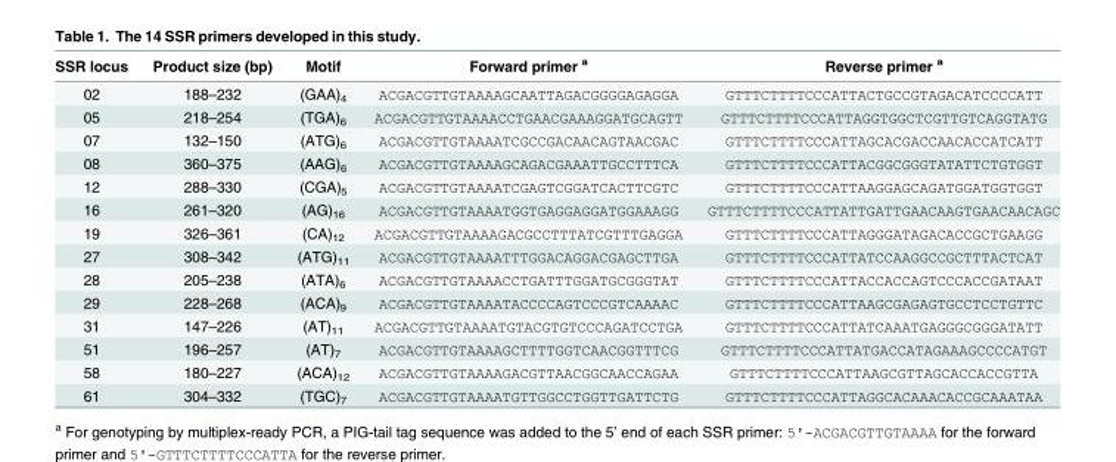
<table><thead><tr><td>SSR locus</td><td>Product size (bp)</td><td>Motif</td><td>Forward primer <sup>a</sup></td><td>Reverse primer <sup>a</sup></td></tr></thead><tbody><tr><td>02</td><td>188–232</td><td>(GAA)<sub>4</sub></td><td>ACGACGTTGTAAAAGCAATTAGACGGGGAGAGGA</td><td>GTTTCTTTTCCCATTACTGCCGTAGACATCCCCATT</td></tr><tr><td>05</td><td>218–254</td><td>(TGA)<sub>6</sub></td><td>ACGACGTTGTAAAACCTGAACGAAAGGATGCAGTT</td><td>GTTTCTTTTCCCATTAGGTGGCTCGTTGTCAGGTATG</td></tr><tr><td>07</td><td>132–150</td><td>(ATG)<sub>6</sub></td><td>ACGACGTTGTAAAATCGCCGACAACAGTAACGAC</td><td>GTTTCTTTTCCCATTAGCACGACCAACACCATCATT</td></tr><tr><td>08</td><td>360–375</td><td>(AAG)<sub>6</sub></td><td>ACGACGTTGTAAAAGCAGACGAAATTGCCTTTCA</td><td>GTTTCTTTTCCCATTACGGCGGGTATATTCTGTGGT</td></tr><tr><td>12</td><td>288–330</td><td>(CGA)<sub>5</sub></td><td>ACGACGTTGTAAAATCGAGTCGGATCACTTCGTC</td><td>GTTTCTTTTCCCATTAAGGAGCAGATGGATGGTGGT</td></tr><tr><td>16</td><td>261–320</td><td>(AG)<sub>16</sub></td><td>ACGACGTTGTAAAATGGTGAGGAGGATGGAAAGG</td><td>GTTTCTTTTCCCATTATTGATTGAACAAGTGAACAACAGC</td></tr><tr><td>19</td><td>326–361</td><td>(CA)<sub>12</sub></td><td>ACGACGTTGTAAAAGACGCCTTTATCGTTTGAGGA</td><td>GTTTCTTTTCCCATTAGGGATAGACACCGCTGAAGG</td></tr><tr><td>27</td><td>308–342</td><td>(ATG)<sub>11</sub></td><td>ACGACGTTGTAAAATTTGGACAGGACGAGCTTGA</td><td>GTTTCTTTTCCCATTATCCAAGGCCGCTTTACTCAT</td></tr><tr><td>28</td><td>205–238</td><td>(ATA)<sub>6</sub></td><td>ACGACGTTGTAAAACCTGATTTGGATGCGGGTAT</td><td>GTTTCTTTTCCCATTACCACCAGTCCCACCGATAAT</td></tr><tr><td>29</td><td>228–268</td><td>(ACA)<sub>9</sub></td><td>ACGACGTTGTAAAATACCCCAGTCCCGTCAAAAC</td><td>GTTTCTTTTCCCATTAAGCGAGAGTGCCTCCTGTTC</td></tr><tr><td>31</td><td>147–226</td><td>(AT)<sub>11</sub></td><td>ACGACGTTGTAAAATGTACGTGTCCCAGATCCTGA</td><td>GTTTCTTTTCCCATTATCAAATGAGGGCGGGATATT</td></tr><tr><td>51</td><td>196–257</td><td>(AT)<sub>7</sub></td><td>ACGACGTTGTAAAAGCTTTTGGTCAACGGTTTCG</td><td>GTTTCTTTTCCCATTATGACCATAGAAAGCCCCATGT</td></tr><tr><td>58</td><td>180–227</td><td>(ACA)<sub>12</sub></td><td>ACGACGTTGTAAAAGACGTTAACGGCAACCAGAA</td><td>GTTTCTTTTCCCATTAAGCGTTAGCACCACCGTTA</td></tr><tr><td>61</td><td>304–332</td><td>(TGC)<sub>7</sub></td><td>ACGACGTTGTAAAATGTTGGCCTGGTTGATTCTG</td><td>GTTTCTTTTCCCATTAGGCACAAACACCGCAAATAA</td></tr></tbody></table>